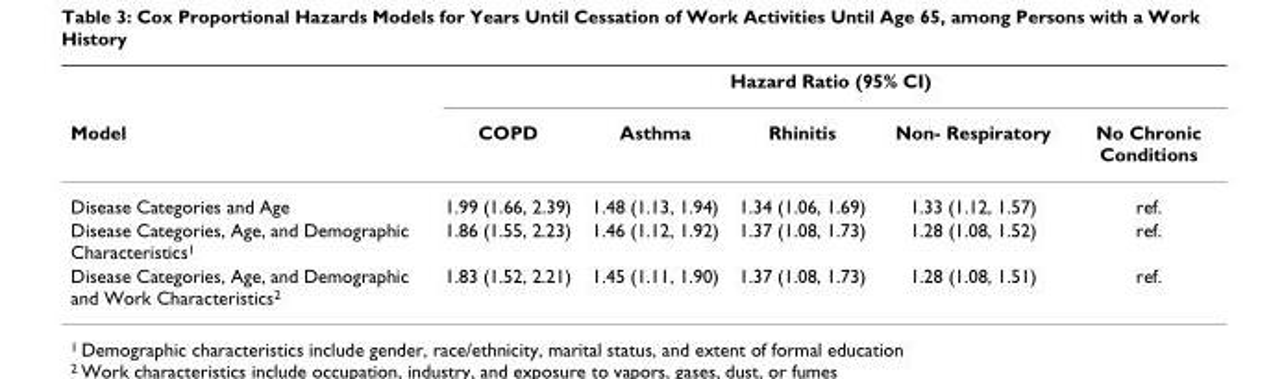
<table><thead><tr><td rowspan="2">Model</td><td colspan="5">Hazard Ratio (95% CI)</td></tr><tr><td>COPD</td><td>Asthma</td><td>Rhinitis</td><td>Non- Respiratory</td><td>No Chronic Conditions</td></tr></thead><tbody><tr><td>Disease Categories and Age</td><td>1.99 (1.66, 2.39)</td><td>1.48 (1.13, 1.94)</td><td>1.34 (1.06, 1.69)</td><td>1.33 (1.12, 1.57)</td><td>ref.</td></tr><tr><td>Disease Categories, Age, and Demographic Characteristics<sup>1</sup></td><td>1.86 (1.55, 2.23)</td><td>1.46 (1.12, 1.92)</td><td>1.37 (1.08, 1.73)</td><td>1.28 (1.08, 1.52)</td><td>ref.</td></tr><tr><td>Disease Categories, Age, and Demographic and Work Characteristics<sup>2</sup></td><td>1.83 (1.52, 2.21)</td><td>1.45 (1.11, 1.90)</td><td>1.37 (1.08, 1.73)</td><td>1.28 (1.08, 1.51)</td><td>ref.</td></tr></tbody></table>